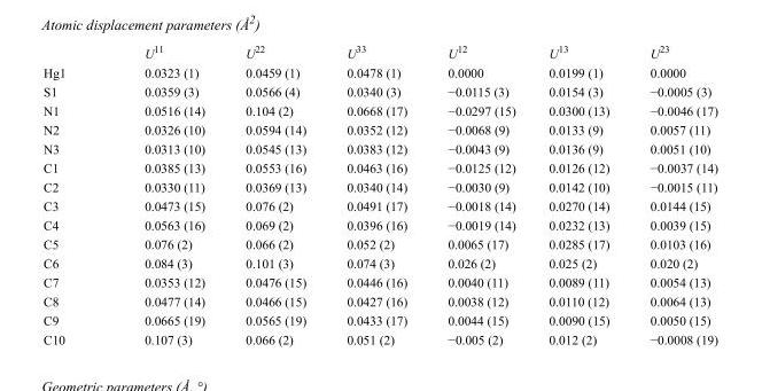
<table><thead><tr><td></td><td>U<sup>11</sup></td><td>U<sup>22</sup></td><td>U<sup>33</sup></td><td>U<sup>12</sup></td><td>U<sup>13</sup></td><td>U<sup>23</sup></td></tr></thead><tbody><tr><td>Hg1</td><td>0.0323 (1)</td><td>0.0459 (1)</td><td>0.0478 (1)</td><td>0.0000</td><td>0.0199 (1)</td><td>0.0000</td></tr><tr><td>S1</td><td>0.0359 (3)</td><td>0.0566 (4)</td><td>0.0340 (3)</td><td>−0.0115 (3)</td><td>0.0154 (3)</td><td>−0.0005 (3)</td></tr><tr><td>N1</td><td>0.0516 (14)</td><td>0.104 (2)</td><td>0.0668 (17)</td><td>−0.0297 (15)</td><td>0.0300 (13)</td><td>−0.0046 (17)</td></tr><tr><td>N2</td><td>0.0326 (10)</td><td>0.0594 (14)</td><td>0.0352 (12)</td><td>−0.0068 (9)</td><td>0.0133 (9)</td><td>0.0057 (11)</td></tr><tr><td>N3</td><td>0.0313 (10)</td><td>0.0545 (13)</td><td>0.0383 (12)</td><td>−0.0043 (9)</td><td>0.0136 (9)</td><td>0.0051 (10)</td></tr><tr><td>C1</td><td>0.0385 (13)</td><td>0.0553 (16)</td><td>0.0463 (16)</td><td>−0.0125 (12)</td><td>0.0126 (12)</td><td>−0.0037 (14)</td></tr><tr><td>C2</td><td>0.0330 (11)</td><td>0.0369 (13)</td><td>0.0340 (14)</td><td>−0.0030 (9)</td><td>0.0142 (10)</td><td>−0.0015 (11)</td></tr><tr><td>C3</td><td>0.0473 (15)</td><td>0.076 (2)</td><td>0.0491 (17)</td><td>−0.0018 (14)</td><td>0.0270 (14)</td><td>0.0144 (15)</td></tr><tr><td>C4</td><td>0.0563 (16)</td><td>0.069 (2)</td><td>0.0396 (16)</td><td>−0.0019 (14)</td><td>0.0232 (13)</td><td>0.0039 (15)</td></tr><tr><td>C5</td><td>0.076 (2)</td><td>0.066 (2)</td><td>0.052 (2)</td><td>0.0065 (17)</td><td>0.0285 (17)</td><td>0.0103 (16)</td></tr><tr><td>C6</td><td>0.084 (3)</td><td>0.101 (3)</td><td>0.074 (3)</td><td>0.026 (2)</td><td>0.025 (2)</td><td>0.020 (2)</td></tr><tr><td>C7</td><td>0.0353 (12)</td><td>0.0476 (15)</td><td>0.0446 (16)</td><td>0.0040 (11)</td><td>0.0089 (11)</td><td>0.0054 (13)</td></tr><tr><td>C8</td><td>0.0477 (14)</td><td>0.0466 (15)</td><td>0.0427 (16)</td><td>0.0038 (12)</td><td>0.0110 (12)</td><td>0.0064 (13)</td></tr><tr><td>C9</td><td>0.0665 (19)</td><td>0.0565 (19)</td><td>0.0433 (17)</td><td>0.0044 (15)</td><td>0.0090 (15)</td><td>0.0050 (15)</td></tr><tr><td>C10</td><td>0.107 (3)</td><td>0.066 (2)</td><td>0.051 (2)</td><td>−0.005 (2)</td><td>0.012 (2)</td><td>−0.0008 (19)</td></tr></tbody></table>